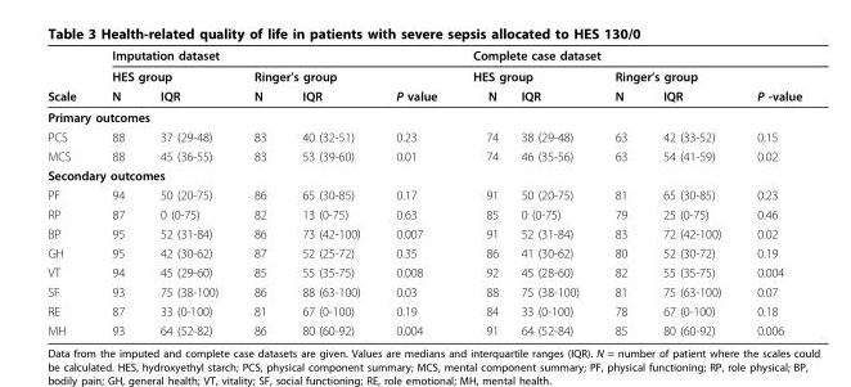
<table><thead><tr><td rowspan="3">Scale</td><td colspan="5">Imputation dataset</td><td colspan="5">Complete case dataset</td></tr><tr><td colspan="2">HES group</td><td colspan="3">Ringer’s group</td><td colspan="2">HES group</td><td colspan="3">Ringer’s group</td></tr><tr><td>N</td><td>IQR</td><td>N</td><td>IQR</td><td>P value</td><td>N</td><td>IQR</td><td>N</td><td>IQR</td><td>P -value</td></tr></thead><tbody><tr><td colspan="11">Primary outcomes</td></tr><tr><td>PCS</td><td>88</td><td>37 (29-48)</td><td>83</td><td>40 (32-51)</td><td>0.23</td><td>74</td><td>38 (29-48)</td><td>63</td><td>42 (33-52)</td><td>0.15</td></tr><tr><td>MCS</td><td>88</td><td>45 (36-55)</td><td>83</td><td>53 (39-60)</td><td>0.01</td><td>74</td><td>46 (35-56)</td><td>63</td><td>54 (41-59)</td><td>0.02</td></tr><tr><td colspan="11">Secondary outcomes</td></tr><tr><td>PF</td><td>94</td><td>50 (20-75)</td><td>86</td><td>65 (30-85)</td><td>0.17</td><td>91</td><td>50 (20-75)</td><td>81</td><td>65 (30-85)</td><td>0.23</td></tr><tr><td>RP</td><td>87</td><td>0 (0-75)</td><td>82</td><td>13 (0-75)</td><td>0.63</td><td>85</td><td>0 (0-75)</td><td>79</td><td>25 (0-75)</td><td>0.46</td></tr><tr><td>BP</td><td>95</td><td>52 (31-84)</td><td>86</td><td>73 (42-100)</td><td>0.007</td><td>91</td><td>52 (31-84)</td><td>83</td><td>72 (42-100)</td><td>0.02</td></tr><tr><td>GH</td><td>95</td><td>42 (30-62)</td><td>87</td><td>52 (25-72)</td><td>0.35</td><td>86</td><td>41 (30-62)</td><td>80</td><td>52 (30-72)</td><td>0.19</td></tr><tr><td>VT</td><td>94</td><td>45 (29-60)</td><td>85</td><td>55 (35-75)</td><td>0.008</td><td>92</td><td>45 (28-60)</td><td>82</td><td>55 (35-75)</td><td>0.004</td></tr><tr><td>SF</td><td>93</td><td>75 (38-100)</td><td>86</td><td>88 (63-100)</td><td>0.03</td><td>88</td><td>75 (38-100)</td><td>81</td><td>75 (63-100)</td><td>0.07</td></tr><tr><td>RE</td><td>87</td><td>33 (0-100)</td><td>81</td><td>67 (0-100)</td><td>0.19</td><td>84</td><td>33 (0-100)</td><td>78</td><td>67 (0-100)</td><td>0.18</td></tr><tr><td>MH</td><td>93</td><td>64 (52-82)</td><td>86</td><td>80 (60-92)</td><td>0.004</td><td>91</td><td>64 (52-84)</td><td>85</td><td>80 (60-92)</td><td>0.006</td></tr></tbody></table>